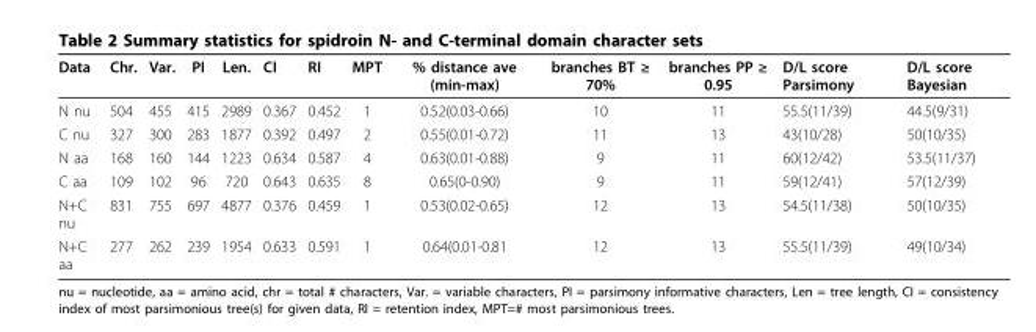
<table><thead><tr><td>Data</td><td>Chr.</td><td>Var.</td><td>PI</td><td>Len.</td><td>CI</td><td>RI</td><td>MPT</td><td>% distance ave (min-max)</td><td>branches BT ≥ 70%</td><td>branches PP ≥ 0.95</td><td>D/L score Parsimony</td><td>D/L score Bayesian</td></tr></thead><tbody><tr><td>N nu</td><td>504</td><td>455</td><td>415</td><td>2989</td><td>0.367</td><td>0.452</td><td>1</td><td>0.52(0.03-0.66)</td><td>10</td><td>11</td><td>55.5(11/39)</td><td>44.5(9/31)</td></tr><tr><td>C nu</td><td>327</td><td>300</td><td>283</td><td>1877</td><td>0.392</td><td>0.497</td><td>2</td><td>0.55(0.01-0.72)</td><td>11</td><td>13</td><td>43(10/28)</td><td>50(10/35)</td></tr><tr><td>N aa</td><td>168</td><td>160</td><td>144</td><td>1223</td><td>0.634</td><td>0.587</td><td>4</td><td>0.63(0.01-0.88)</td><td>9</td><td>11</td><td>60(12/42)</td><td>53.5(11/37)</td></tr><tr><td>C aa</td><td>109</td><td>102</td><td>96</td><td>720</td><td>0.643</td><td>0.635</td><td>8</td><td>0.65(0-0.90)</td><td>9</td><td>11</td><td>59(12/41)</td><td>57(12/39)</td></tr><tr><td>N+C nu</td><td>831</td><td>755</td><td>697</td><td>4877</td><td>0.376</td><td>0.459</td><td>1</td><td>0.53(0.02-0.65)</td><td>12</td><td>13</td><td>54.5(11/38)</td><td>50(10/35)</td></tr><tr><td>N+C aa</td><td>277</td><td>262</td><td>239</td><td>1954</td><td>0.633</td><td>0.591</td><td>1</td><td>0.64(0.01-0.81</td><td>12</td><td>13</td><td>55.5(11/39)</td><td>49(10/34)</td></tr></tbody></table>